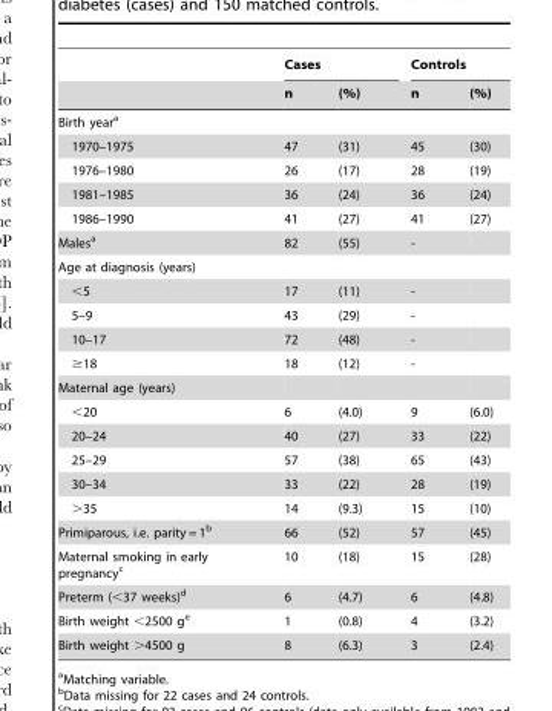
<table><thead><tr><td rowspan="2"></td><td colspan="2">Cases</td><td colspan="2">Controls</td></tr><tr><td>n</td><td>(%)</td><td>n</td><td>(%)</td></tr></thead><tbody><tr><td colspan="5">Birth year<sup>a</sup></td></tr><tr><td>1970–1975</td><td>47</td><td>(31)</td><td>45</td><td>(30)</td></tr><tr><td>1976–1980</td><td>26</td><td>(17)</td><td>28</td><td>(19)</td></tr><tr><td>1981–1985</td><td>36</td><td>(24)</td><td>36</td><td>(24)</td></tr><tr><td>1986–1990</td><td>41</td><td>(27)</td><td>41</td><td>(27)</td></tr><tr><td>Males<sup>a</sup></td><td>82</td><td>(55)</td><td>-</td><td></td></tr><tr><td colspan="5">Age at diagnosis (years)</td></tr><tr><td>&lt;5</td><td>17</td><td>(11)</td><td>-</td><td></td></tr><tr><td>5–9</td><td>43</td><td>(29)</td><td>-</td><td></td></tr><tr><td>10–17</td><td>72</td><td>(48)</td><td>-</td><td></td></tr><tr><td>≥18</td><td>18</td><td>(12)</td><td>-</td><td></td></tr><tr><td colspan="5">Maternal age (years)</td></tr><tr><td>&lt;20</td><td>6</td><td>(4.0)</td><td>9</td><td>(6.0)</td></tr><tr><td>20–24</td><td>40</td><td>(27)</td><td>33</td><td>(22)</td></tr><tr><td>25–29</td><td>57</td><td>(38)</td><td>65</td><td>(43)</td></tr><tr><td>30–34</td><td>33</td><td>(22)</td><td>28</td><td>(19)</td></tr><tr><td>&gt;35</td><td>14</td><td>(9.3)</td><td>15</td><td>(10)</td></tr><tr><td>Primiparous, i.e. parity = 1<sup>b</sup></td><td>66</td><td>(52)</td><td>57</td><td>(45)</td></tr><tr><td>Maternal smoking in early pregnancy<sup>c</sup></td><td>10</td><td>(18)</td><td>15</td><td>(28)</td></tr><tr><td>Preterm (&lt;37 weeks)<sup>d</sup></td><td>6</td><td>(4.7)</td><td>6</td><td>(4.8)</td></tr><tr><td>Birth weight &lt;2500 g<sup>e</sup></td><td>1</td><td>(0.8)</td><td>4</td><td>(3.2)</td></tr><tr><td>Birth weight &gt;4500 g</td><td>8</td><td>(6.3)</td><td>3</td><td>(2.4)</td></tr></tbody></table>